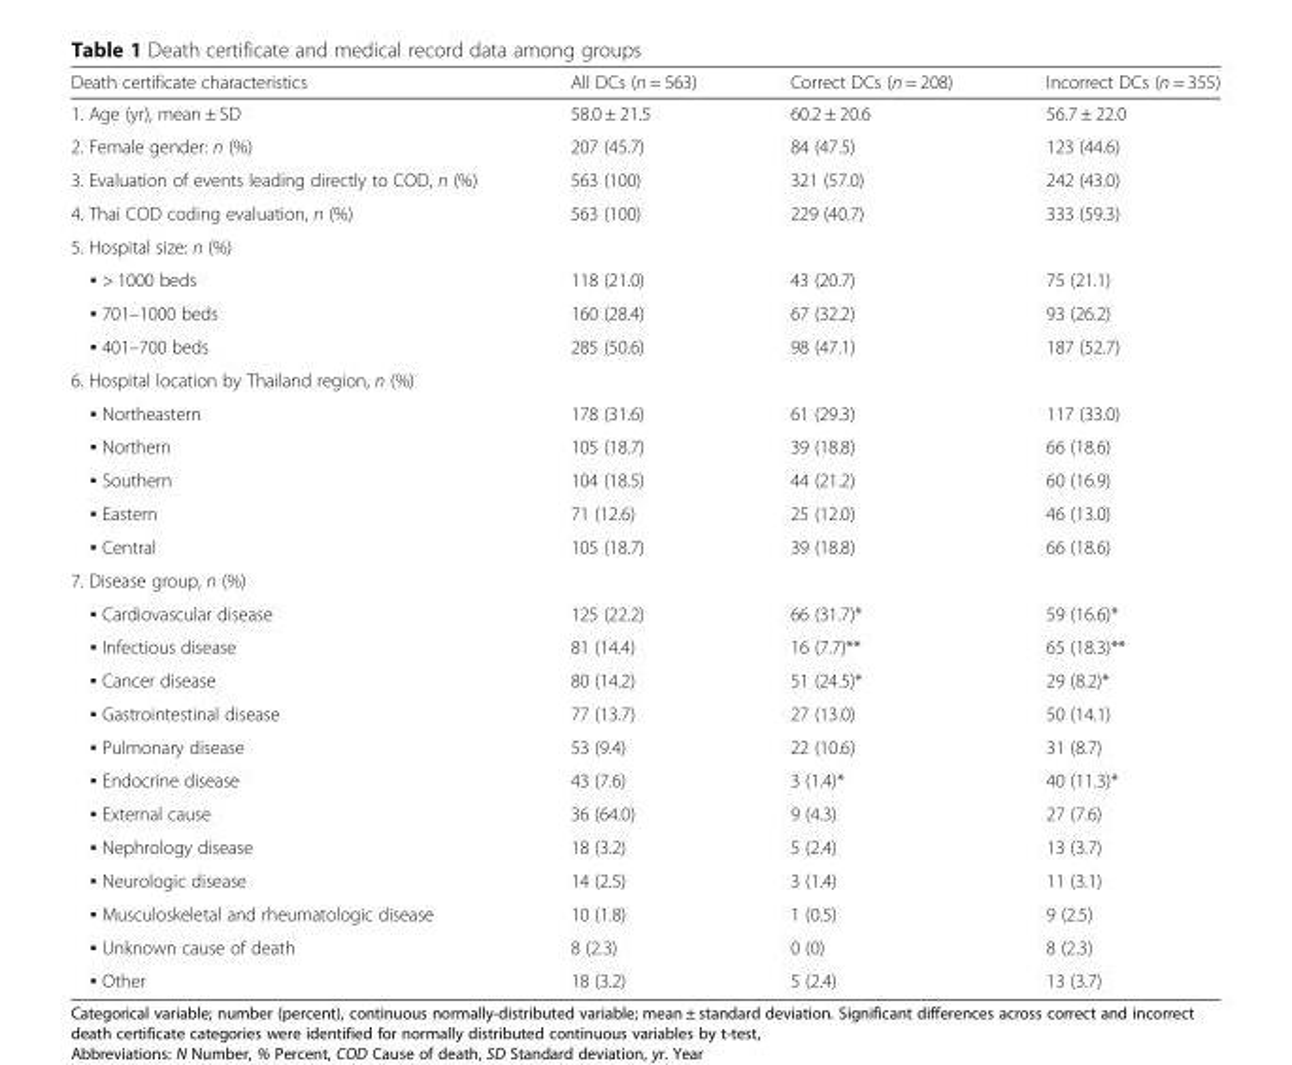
<table><thead><tr><td>Death certificate characteristics</td><td>All DCs (n = 563)</td><td>Correct DCs (n = 208)</td><td>Incorrect DCs (n = 355)</td></tr></thead><tbody><tr><td>1. Age (yr), mean ± SD</td><td>58.0 ± 21.5</td><td>60.2 ± 20.6</td><td>56.7 ± 22.0</td></tr><tr><td>2. Female gender: n (%)</td><td>207 (45.7)</td><td>84 (47.5)</td><td>123 (44.6)</td></tr><tr><td>3. Evaluation of events leading directly to COD, n (%)</td><td>563 (100)</td><td>321 (57.0)</td><td>242 (43.0)</td></tr><tr><td>4. Thai COD coding evaluation, n (%)</td><td>563 (100)</td><td>229 (40.7)</td><td>333 (59.3)</td></tr><tr><td colspan="4">5. Hospital size: n (%)</td></tr><tr><td>▪ &gt; 1000 beds</td><td>118 (21.0)</td><td>43 (20.7)</td><td>75 (21.1)</td></tr><tr><td>▪ 701–1000 beds</td><td>160 (28.4)</td><td>67 (32.2)</td><td>93 (26.2)</td></tr><tr><td>▪ 401–700 beds</td><td>285 (50.6)</td><td>98 (47.1)</td><td>187 (52.7)</td></tr><tr><td colspan="4">6. Hospital location by Thailand region, n (%)</td></tr><tr><td>▪ Northeastern</td><td>178 (31.6)</td><td>61 (29.3)</td><td>117 (33.0)</td></tr><tr><td>▪ Northern</td><td>105 (18.7)</td><td>39 (18.8)</td><td>66 (18.6)</td></tr><tr><td>▪ Southern</td><td>104 (18.5)</td><td>44 (21.2)</td><td>60 (16.9)</td></tr><tr><td>▪ Eastern</td><td>71 (12.6)</td><td>25 (12.0)</td><td>46 (13.0)</td></tr><tr><td>▪ Central</td><td>105 (18.7)</td><td>39 (18.8)</td><td>66 (18.6)</td></tr><tr><td colspan="4">7. Disease group, n (%)</td></tr><tr><td>▪ Cardiovascular disease</td><td>125 (22.2)</td><td>66 (31.7)*</td><td>59 (16.6)*</td></tr><tr><td>▪ Infectious disease</td><td>81 (14.4)</td><td>16 (7.7)**</td><td>65 (18.3)**</td></tr><tr><td>▪ Cancer disease</td><td>80 (14.2)</td><td>51 (24.5)*</td><td>29 (8.2)*</td></tr><tr><td>▪ Gastrointestinal disease</td><td>77 (13.7)</td><td>27 (13.0)</td><td>50 (14.1)</td></tr><tr><td>▪ Pulmonary disease</td><td>53 (9.4)</td><td>22 (10.6)</td><td>31 (8.7)</td></tr><tr><td>▪ Endocrine disease</td><td>43 (7.6)</td><td>3 (1.4)*</td><td>40 (11.3)*</td></tr><tr><td>▪ External cause</td><td>36 (64.0)</td><td>9 (4.3)</td><td>27 (7.6)</td></tr><tr><td>▪ Nephrology disease</td><td>18 (3.2)</td><td>5 (2.4)</td><td>13 (3.7)</td></tr><tr><td>▪ Neurologic disease</td><td>14 (2.5)</td><td>3 (1.4)</td><td>11 (3.1)</td></tr><tr><td>▪ Musculoskeletal and rheumatologic disease</td><td>10 (1.8)</td><td>1 (0.5)</td><td>9 (2.5)</td></tr><tr><td>▪ Unknown cause of death</td><td>8 (2.3)</td><td>0 (0)</td><td>8 (2.3)</td></tr><tr><td>▪ Other</td><td>18 (3.2)</td><td>5 (2.4)</td><td>13 (3.7)</td></tr></tbody></table>